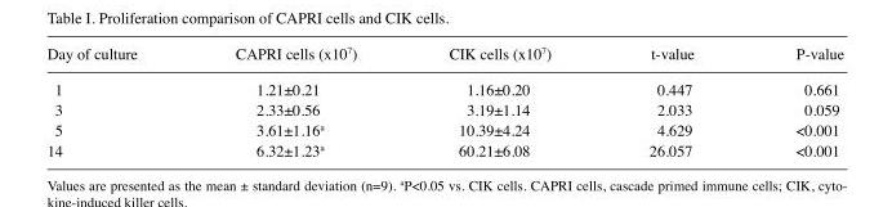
<table><thead><tr><td>Day of culture</td><td>CAPRI cells (x107)</td><td>CIK cells (x107)</td><td>t-value</td><td>P-value</td></tr></thead><tbody><tr><td>1</td><td>1.21±0.21</td><td>1.16±0.20</td><td>0.447</td><td>0.661</td></tr><tr><td>3</td><td>2.33±0.56</td><td>3.19±1.14</td><td>2.033</td><td>0.059</td></tr><tr><td>5</td><td>3.61±1.16<sup>a</sup></td><td>10.39±4.24</td><td>4.629</td><td>&lt;0.001</td></tr><tr><td>14</td><td>6.32±1.23<sup>a</sup></td><td>60.21±6.08</td><td>26.057</td><td>&lt;0.001</td></tr></tbody></table>